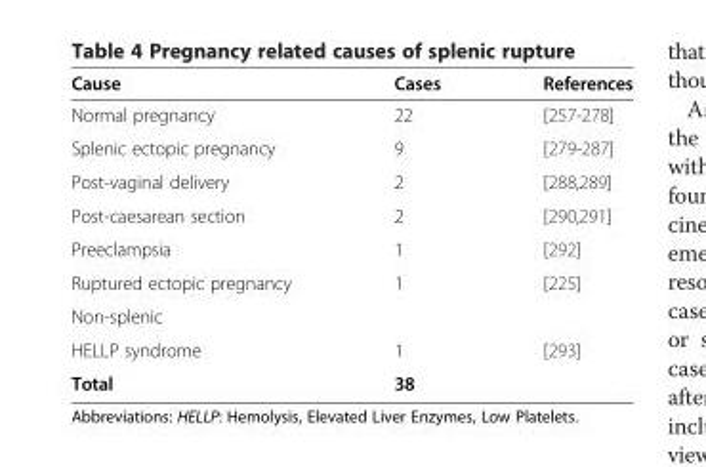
<table><thead><tr><td>Cause</td><td>Cases</td><td>References</td></tr></thead><tbody><tr><td>Normal pregnancy</td><td>22</td><td>[257-278]</td></tr><tr><td>Splenic ectopic pregnancy</td><td>9</td><td>[279-287]</td></tr><tr><td>Post-vaginal delivery</td><td>2</td><td>[288,289]</td></tr><tr><td>Post-caesarean section</td><td>2</td><td>[290,291]</td></tr><tr><td>Preeclampsia</td><td>1</td><td>[292]</td></tr><tr><td>Ruptured ectopic pregnancy</td><td>1</td><td>[225]</td></tr><tr><td colspan="3">Non-splenic</td></tr><tr><td>HELLP syndrome</td><td>1</td><td>[293]</td></tr><tr><td>Total</td><td>38</td><td></td></tr></tbody></table>